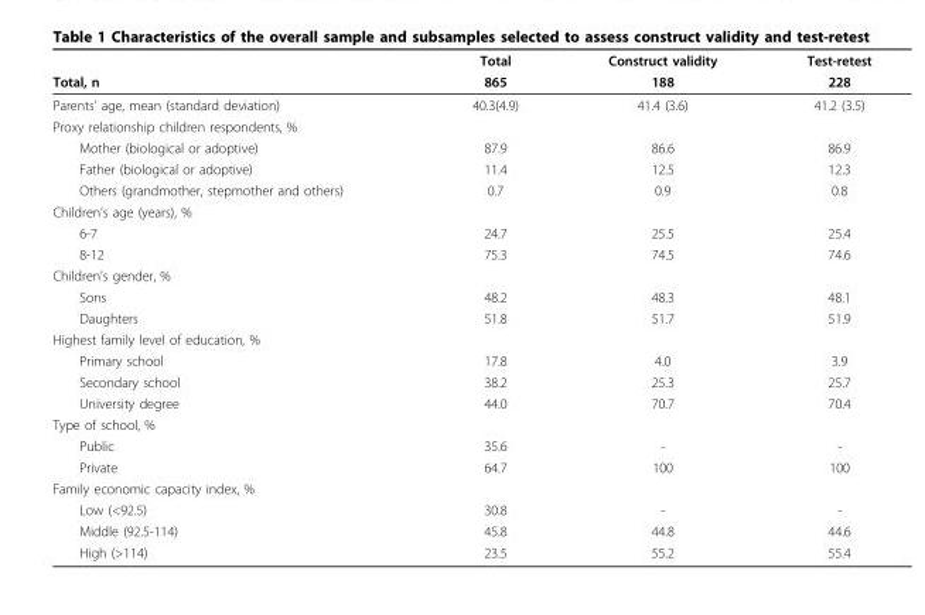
<table><thead><tr><td rowspan="2">Total, n</td><td rowspan="2">Total 865</td><td rowspan="2">Construct validity 188</td><td rowspan="2">Test-retest 228</td></tr><tr></tr></thead><tbody><tr><td>Parents’ age, mean (standard deviation)</td><td>40.3(4.9)</td><td>41.4 (3.6)</td><td>41.2 (3.5)</td></tr><tr><td colspan="4">Proxy relationship children respondents, %</td></tr><tr><td>Mother (biological or adoptive)</td><td>87.9</td><td>86.6</td><td>86.9</td></tr><tr><td>Father (biological or adoptive)</td><td>11.4</td><td>12.5</td><td>12.3</td></tr><tr><td>Others (grandmother, stepmother and others)</td><td>0.7</td><td>0.9</td><td>0.8</td></tr><tr><td colspan="4">Children’s age (years), %</td></tr><tr><td>6-7</td><td>24.7</td><td>25.5</td><td>25.4</td></tr><tr><td>8-12</td><td>75.3</td><td>74.5</td><td>74.6</td></tr><tr><td colspan="4">Children’s gender, %</td></tr><tr><td>Sons</td><td>48.2</td><td>48.3</td><td>48.1</td></tr><tr><td>Daughters</td><td>51.8</td><td>51.7</td><td>51.9</td></tr><tr><td colspan="4">Highest family level of education, %</td></tr><tr><td>Primary school</td><td>17.8</td><td>4.0</td><td>3.9</td></tr><tr><td>Secondary school</td><td>38.2</td><td>25.3</td><td>25.7</td></tr><tr><td>University degree</td><td>44.0</td><td>70.7</td><td>70.4</td></tr><tr><td colspan="4">Type of school, %</td></tr><tr><td>Public</td><td>35.6</td><td>-</td><td>-</td></tr><tr><td>Private</td><td>64.7</td><td>100</td><td>100</td></tr><tr><td colspan="4">Family economic capacity index, %</td></tr><tr><td>Low (&lt;92.5)</td><td>30.8</td><td>-</td><td>-</td></tr><tr><td>Middle (92.5-114)</td><td>45.8</td><td>44.8</td><td>44.6</td></tr><tr><td>High (&gt;114)</td><td>23.5</td><td>55.2</td><td>55.4</td></tr></tbody></table>